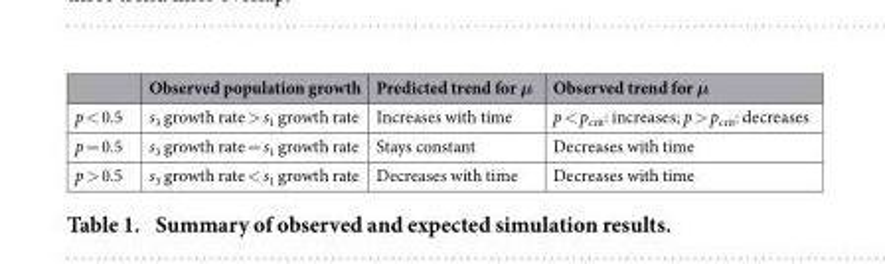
<table><thead><tr><td></td><td>Observed population growth</td><td>Predicted trend for μ</td><td>Observed trend for μ</td></tr></thead><tbody><tr><td>p &lt; 0.5</td><td>s<sub>3</sub> growth rate &gt; s<sub>1</sub> growth rate</td><td>Increases with time</td><td>p &lt; p<sub>crit</sub>: increases; p &gt; p<sub>crit</sub>: decreases</td></tr><tr><td>p = 0.5</td><td>s<sub>3</sub> growth rate = s<sub>1</sub> growth rate</td><td>Stays constant</td><td>Decreases with time</td></tr><tr><td>p &gt; 0.5</td><td>s<sub>3</sub> growth rate &lt; s<sub>1</sub> growth rate</td><td>Decreases with time</td><td>Decreases with time</td></tr></tbody></table>